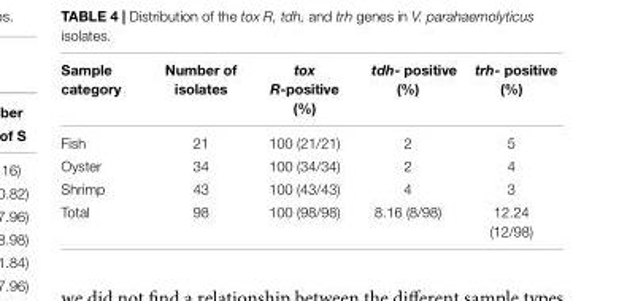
<table><thead><tr><td>Sample category</td><td>Number of isolates</td><td>tox R-positive (%)</td><td>tdh- positive (%)</td><td>trh- positive (%)</td></tr></thead><tbody><tr><td>Fish</td><td>21</td><td>100 (21/21)</td><td>2</td><td>5</td></tr><tr><td>Oyster</td><td>34</td><td>100 (34/34)</td><td>2</td><td>4</td></tr><tr><td>Shrimp</td><td>43</td><td>100 (43/43)</td><td>4</td><td>3</td></tr><tr><td>Total</td><td>98</td><td>100 (98/98)</td><td>8.16 (8/98)</td><td>12.24 (12/98)</td></tr></tbody></table>